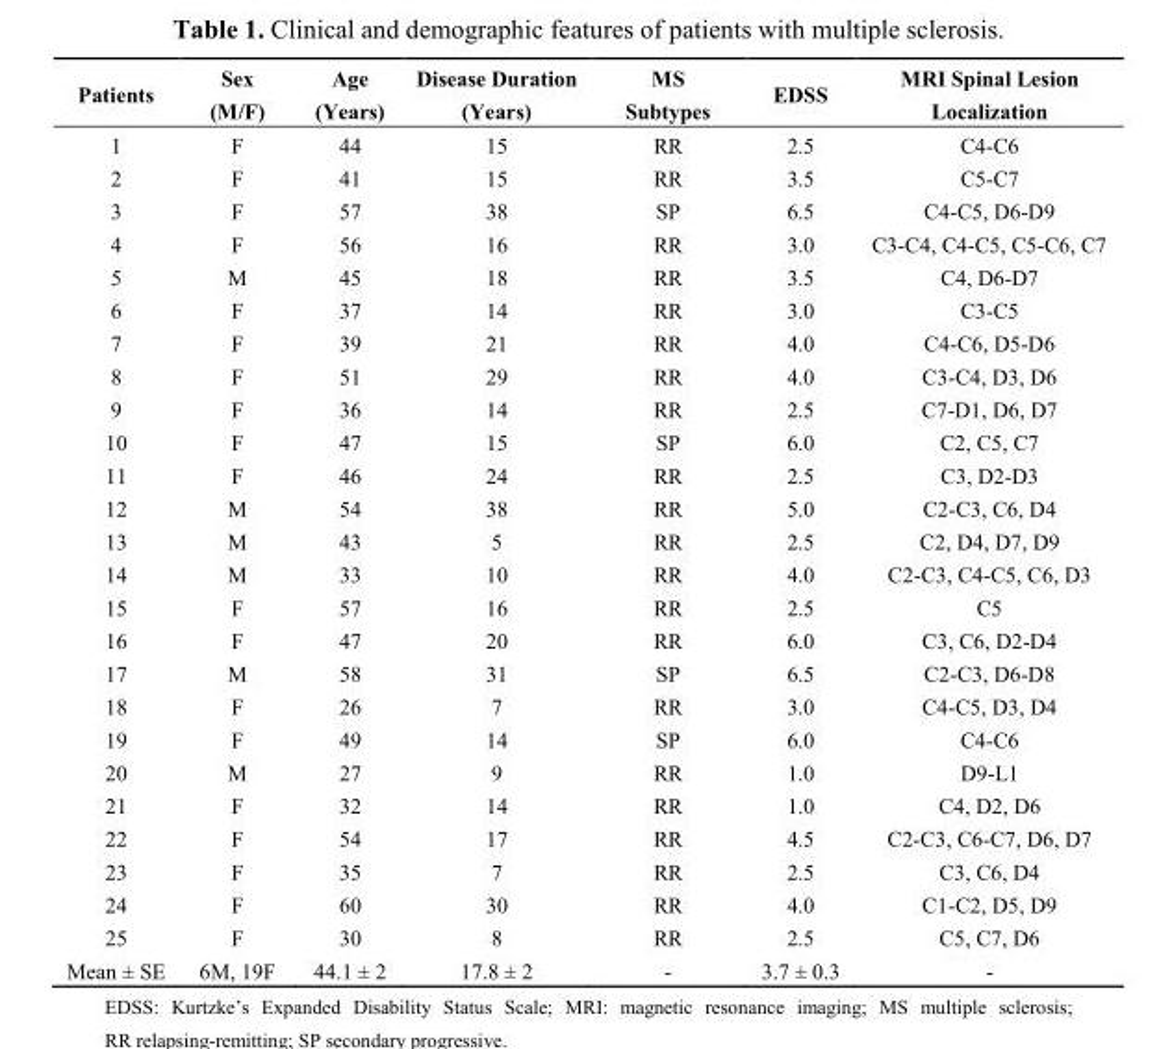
<table><thead><tr><td>Patients</td><td>Sex (M/F)</td><td>Age (Years)</td><td>Disease Duration (Years)</td><td>MS Subtypes</td><td>EDSS</td><td>MRI Spinal Lesion Localization</td></tr></thead><tbody><tr><td>1</td><td>F</td><td>44</td><td>15</td><td>RR</td><td>2.5</td><td>C4-C6</td></tr><tr><td>2</td><td>F</td><td>41</td><td>15</td><td>RR</td><td>3.5</td><td>C5-C7</td></tr><tr><td>3</td><td>F</td><td>57</td><td>38</td><td>SP</td><td>6.5</td><td>C4-C5, D6-D9</td></tr><tr><td>4</td><td>F</td><td>56</td><td>16</td><td>RR</td><td>3.0</td><td>C3-C4, C4-C5, C5-C6, C7</td></tr><tr><td>5</td><td>M</td><td>45</td><td>18</td><td>RR</td><td>3.5</td><td>C4, D6-D7</td></tr><tr><td>6</td><td>F</td><td>37</td><td>14</td><td>RR</td><td>3.0</td><td>C3-C5</td></tr><tr><td>7</td><td>F</td><td>39</td><td>21</td><td>RR</td><td>4.0</td><td>C4-C6, D5-D6</td></tr><tr><td>8</td><td>F</td><td>51</td><td>29</td><td>RR</td><td>4.0</td><td>C3-C4, D3, D6</td></tr><tr><td>9</td><td>F</td><td>36</td><td>14</td><td>RR</td><td>2.5</td><td>C7-D1, D6, D7</td></tr><tr><td>10</td><td>F</td><td>47</td><td>15</td><td>SP</td><td>6.0</td><td>C2, C5, C7</td></tr><tr><td>11</td><td>F</td><td>46</td><td>24</td><td>RR</td><td>2.5</td><td>C3, D2-D3</td></tr><tr><td>12</td><td>M</td><td>54</td><td>38</td><td>RR</td><td>5.0</td><td>C2-C3, C6, D4</td></tr><tr><td>13</td><td>M</td><td>43</td><td>5</td><td>RR</td><td>2.5</td><td>C2, D4, D7, D9</td></tr><tr><td>14</td><td>M</td><td>33</td><td>10</td><td>RR</td><td>4.0</td><td>C2-C3, C4-C5, C6, D3</td></tr><tr><td>15</td><td>F</td><td>57</td><td>16</td><td>RR</td><td>2.5</td><td>C5</td></tr><tr><td>16</td><td>F</td><td>47</td><td>20</td><td>RR</td><td>6.0</td><td>C3, C6, D2-D4</td></tr><tr><td>17</td><td>M</td><td>58</td><td>31</td><td>SP</td><td>6.5</td><td>C2-C3, D6-D8</td></tr><tr><td>18</td><td>F</td><td>26</td><td>7</td><td>RR</td><td>3.0</td><td>C4-C5, D3, D4</td></tr><tr><td>19</td><td>F</td><td>49</td><td>14</td><td>SP</td><td>6.0</td><td>C4-C6</td></tr><tr><td>20</td><td>M</td><td>27</td><td>9</td><td>RR</td><td>1.0</td><td>D9-L1</td></tr><tr><td>21</td><td>F</td><td>32</td><td>14</td><td>RR</td><td>1.0</td><td>C4, D2, D6</td></tr><tr><td>22</td><td>F</td><td>54</td><td>17</td><td>RR</td><td>4.5</td><td>C2-C3, C6-C7, D6, D7</td></tr><tr><td>23</td><td>F</td><td>35</td><td>7</td><td>RR</td><td>2.5</td><td>C3, C6, D4</td></tr><tr><td>24</td><td>F</td><td>60</td><td>30</td><td>RR</td><td>4.0</td><td>C1-C2, D5, D9</td></tr><tr><td>25</td><td>F</td><td>30</td><td>8</td><td>RR</td><td>2.5</td><td>C5, C7, D6</td></tr><tr><td>Mean ± SE</td><td>6M, 19F</td><td>44.1 ± 2</td><td>17.8 ± 2</td><td>-</td><td>3.7 ± 0.3</td><td>-</td></tr></tbody></table>